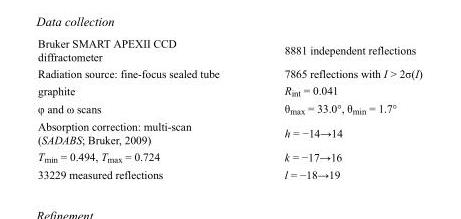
<table><tbody><tr><td>Bruker SMART APEXII CCD diffractometer</td><td>8881 independent reflections</td></tr><tr><td>Radiation source: fine-focus sealed tube</td><td>7865 reflections with I &gt; 2σ(I)</td></tr><tr><td>graphite</td><td>R<sub>int</sub> = 0.041</td></tr><tr><td>φ and ω scans</td><td>θ<sub>max</sub> = 33.0°, θ<sub>min</sub> = 1.7°</td></tr><tr><td>Absorption correction: multi-scan (SADABS; Bruker, 2009)</td><td>h = −14→14</td></tr><tr><td>T<sub>min</sub> = 0.494, T<sub>max</sub> = 0.724</td><td>k = −17→16</td></tr><tr><td>33229 measured reflections</td><td>l = −18→19</td></tr></tbody></table>